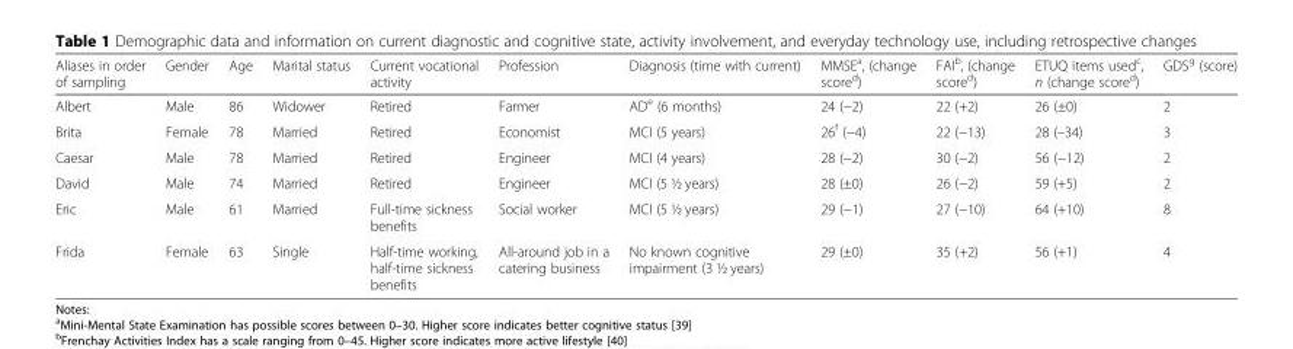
<table><thead><tr><td>Aliases in order of sampling</td><td>Gender</td><td>Age</td><td>Marital status</td><td>Current vocational activity</td><td>Profession</td><td>Diagnosis (time with current)</td><td>MMSE<sup>a</sup>, (change score<sup>d</sup>)</td><td>FAI<sup>b</sup>, (change score<sup>d</sup>)</td><td>ETUQ items used<sup>c</sup>, n (change score<sup>d</sup>)</td><td>GDS<sup>g</sup> (score)</td></tr></thead><tbody><tr><td>Albert</td><td>Male</td><td>86</td><td>Widower</td><td>Retired</td><td>Farmer</td><td>AD<sup>e</sup> (6 months)</td><td>24 (−2)</td><td>22 (+2)</td><td>26 (±0)</td><td>2</td></tr><tr><td>Brita</td><td>Female</td><td>78</td><td>Married</td><td>Retired</td><td>Economist</td><td>MCI (5 years)</td><td>26<sup>f</sup> (−4)</td><td>22 (−13)</td><td>28 (–34)</td><td>3</td></tr><tr><td>Caesar</td><td>Male</td><td>78</td><td>Married</td><td>Retired</td><td>Engineer</td><td>MCI (4 years)</td><td>28 (−2)</td><td>30 (−2)</td><td>56 (−12)</td><td>2</td></tr><tr><td>David</td><td>Male</td><td>74</td><td>Married</td><td>Retired</td><td>Engineer</td><td>MCI (5 ½ years)</td><td>28 (±0)</td><td>26 (−2)</td><td>59 (+5)</td><td>2</td></tr><tr><td>Eric</td><td>Male</td><td>61</td><td>Married</td><td>Full-time sickness benefits</td><td>Social worker</td><td>MCI (5 ½ years)</td><td>29 (−1)</td><td>27 (−10)</td><td>64 (+10)</td><td>8</td></tr><tr><td>Frida</td><td>Female</td><td>63</td><td>Single</td><td>Half-time working, half-time sickness benefits</td><td>All-around job in a catering business</td><td>No known cognitive impairment (3 ½ years)</td><td>29 (±0)</td><td>35 (+2)</td><td>56 (+1)</td><td>4</td></tr></tbody></table>